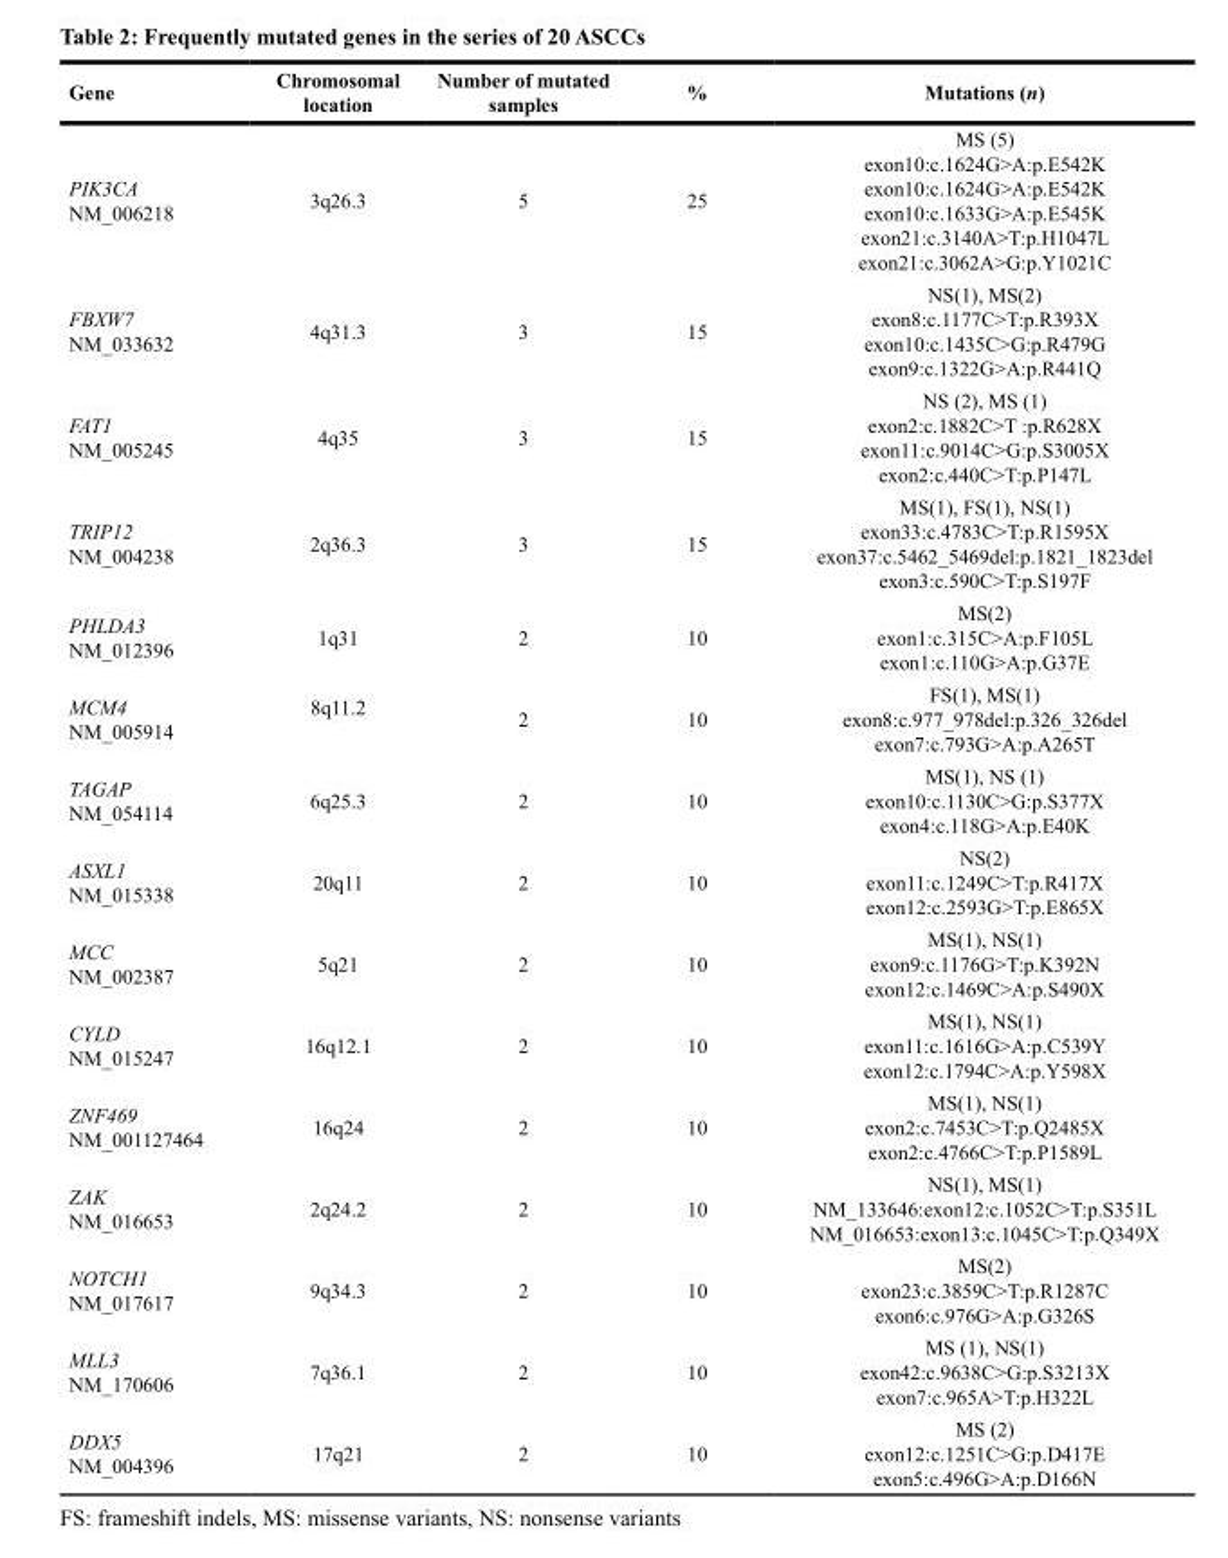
<table><thead><tr><td>Gene</td><td>Chromosomal location</td><td>Number of mutated samples</td><td>%</td><td>Mutations (n)</td></tr></thead><tbody><tr><td>PIK3CA NM_006218</td><td>3q26.3</td><td>5</td><td>25</td><td>MS (5) exon10:c.1624G&gt;A:p.E542K exon10:c.1624G&gt;A:p.E542K exon10:c.1633G&gt;A:p.E545K exon21:c.3140A&gt;T:p.H1047L exon21:c.3062A&gt;G:p.Y1021C</td></tr><tr><td>FBXW7 NM_033632</td><td>4q31.3</td><td>3</td><td>15</td><td>NS(1), MS(2) exon8:c.1177C&gt;T:p.R393X exon10:c.1435C&gt;G:p.R479G exon9:c.1322G&gt;A:p.R441Q</td></tr><tr><td>FAT1 NM_005245</td><td>4q35</td><td>3</td><td>15</td><td>NS (2), MS (1) exon2:c.1882C&gt;T :p.R628X exon11:c.9014C&gt;G:p.S3005X exon2:c.440C&gt;T:p.P147L</td></tr><tr><td>TRIP12 NM_004238</td><td>2q36.3</td><td>3</td><td>15</td><td>MS(1), FS(1), NS(1) exon33:c.4783C&gt;T:p.R1595X exon37:c.5462_5469del:p.1821_1823del exon3:c.590C&gt;T:p.S197F</td></tr><tr><td>PHLDA3 NM_012396</td><td>1q31</td><td>2</td><td>10</td><td>MS(2) exon1:c.315C&gt;A:p.F105L exon1:c.110G&gt;A:p.G37E</td></tr><tr><td>MCM4 NM_005914</td><td>8q11.2</td><td>2</td><td>10</td><td>FS(1), MS(1) exon8:c.977_978del:p.326_326del exon7:c.793G&gt;A:p.A265T</td></tr><tr><td>TAGAP NM_054114</td><td>6q25.3</td><td>2</td><td>10</td><td>MS(1), NS (1) exon10:c.1130C&gt;G:p.S377X exon4:c.118G&gt;A:p.E40K</td></tr><tr><td>ASXL1 NM_015338</td><td>20q11</td><td>2</td><td>10</td><td>NS(2) exon11:c.1249C&gt;T:p.R417X exon12:c.2593G&gt;T:p.E865X</td></tr><tr><td>MCC NM_002387</td><td>5q21</td><td>2</td><td>10</td><td>MS(1), NS(1) exon9:c.1176G&gt;T:p.K392N exon12:c.1469C&gt;A:p.S490X</td></tr><tr><td>CYLD NM_015247</td><td>16q12.1</td><td>2</td><td>10</td><td>MS(1), NS(1) exon11:c.1616G&gt;A:p.C539Y exon12:c.1794C&gt;A:p.Y598X</td></tr><tr><td>ZNF469 NM_001127464</td><td>16q24</td><td>2</td><td>10</td><td>MS(1), NS(1) exon2:c.7453C&gt;T:p.Q2485X exon2:c.4766C&gt;T:p.P1589L</td></tr><tr><td>ZAK NM_016653</td><td>2q24.2</td><td>2</td><td>10</td><td>NS(1), MS(1) NM_133646:exon12:c.1052C&gt;T:p.S351L NM_016653:exon13:c.1045C&gt;T:p.Q349X</td></tr><tr><td>NOTCH1 NM_017617</td><td>9q34.3</td><td>2</td><td>10</td><td>MS(2) exon23:c.3859C&gt;T:p.R1287C exon6:c.976G&gt;A:p.G326S</td></tr><tr><td>MLL3 NM_170606</td><td>7q36.1</td><td>2</td><td>10</td><td>MS (1), NS(1) exon42:c.9638C&gt;G:p.S3213X exon7:c.965A&gt;T:p.H322L</td></tr><tr><td>DDX5 NM_004396</td><td>17q21</td><td>2</td><td>10</td><td>MS (2) exon12:c.1251C&gt;G:p.D417E exon5:c.496G&gt;A:p.D166N</td></tr></tbody></table>